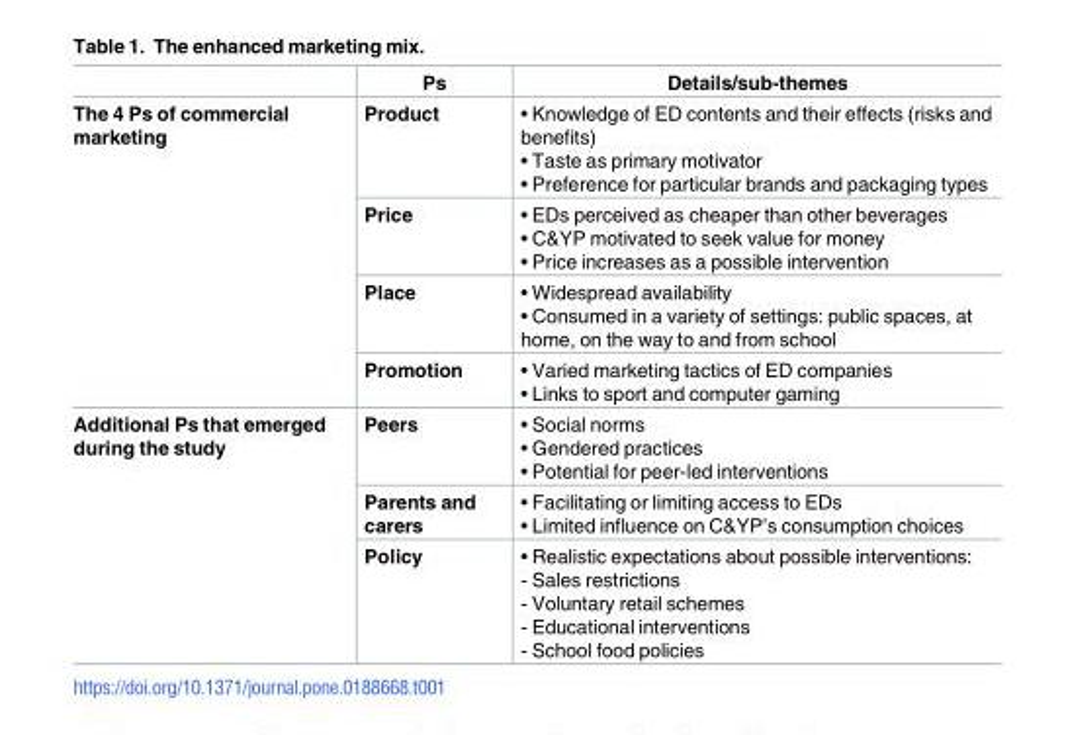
<table><thead><tr><td></td><td>Ps</td><td>Details/sub-themes</td></tr></thead><tbody><tr><td rowspan="4">The 4 Ps of commercial marketing</td><td>Product</td><td>• Knowledge of ED contents and their effects (risks and benefits) • Taste as primary motivator • Preference for particular brands and packaging types</td></tr><tr><td>Price</td><td>• EDs perceived as cheaper than other beverages • C&amp;YP motivated to seek value for money • Price increases as a possible intervention</td></tr><tr><td>Place</td><td>• Widespread availability • Consumed in a variety of settings: public spaces, at home, on the way to and from school</td></tr><tr><td>Promotion</td><td>• Varied marketing tactics of ED companies • Links to sport and computer gaming</td></tr><tr><td rowspan="3">Additional Ps that emerged during the study</td><td>Peers</td><td>• Social norms • Gendered practices • Potential for peer-led interventions</td></tr><tr><td>Parents and carers</td><td>• Facilitating or limiting access to EDs • Limited influence on C&amp;YP’s consumption choices</td></tr><tr><td>Policy</td><td>• Realistic expectations about possible interventions: - Sales restrictions - Voluntary retail schemes - Educational interventions - School food policies</td></tr></tbody></table>